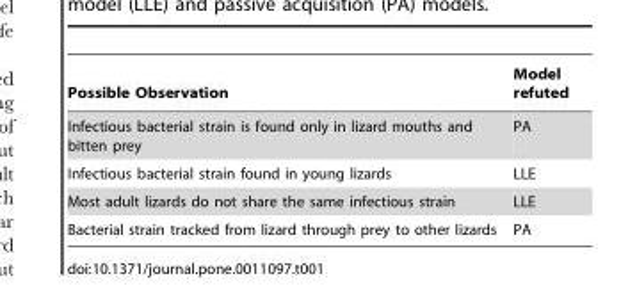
<table><thead><tr><td>Possible Observation</td><td>Model refuted</td></tr></thead><tbody><tr><td>Infectious bacterial strain is found only in lizard mouths and bitten prey</td><td>PA</td></tr><tr><td>Infectious bacterial strain found in young lizards</td><td>LLE</td></tr><tr><td>Most adult lizards do not share the same infectious strain</td><td>LLE</td></tr><tr><td>Bacterial strain tracked from lizard through prey to other lizards</td><td>PA</td></tr></tbody></table>